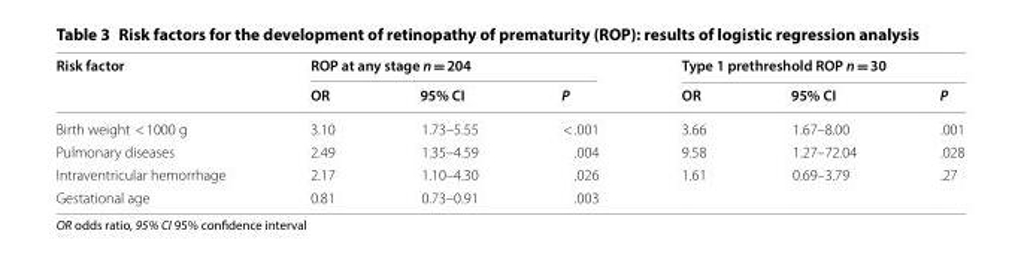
<table><thead><tr><td rowspan="2">Risk factor</td><td colspan="3">ROP at any stage n = 204</td><td colspan="3">Type 1 prethreshold ROP n = 30</td></tr><tr><td>OR</td><td>95% CI</td><td>P</td><td>OR</td><td>95% CI</td><td>P</td></tr></thead><tbody><tr><td>Birth weight &lt; 1000 g</td><td>3.10</td><td>1.73–5.55</td><td>&lt; .001</td><td>3.66</td><td>1.67–8.00</td><td>.001</td></tr><tr><td>Pulmonary diseases</td><td>2.49</td><td>1.35–4.59</td><td>.004</td><td>9.58</td><td>1.27–72.04</td><td>.028</td></tr><tr><td>Intraventricular hemorrhage</td><td>2.17</td><td>1.10–4.30</td><td>.026</td><td>1.61</td><td>0.69–3.79</td><td>.27</td></tr><tr><td>Gestational age</td><td>0.81</td><td>0.73–0.91</td><td>.003</td><td></td><td></td><td></td></tr></tbody></table>